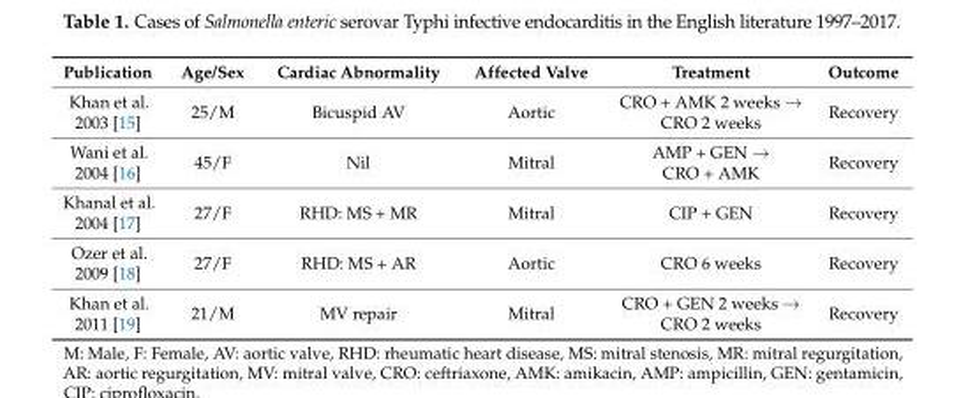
<table><thead><tr><td>Publication</td><td>Age/Sex</td><td>Cardiac Abnormality</td><td>Affected Valve</td><td>Treatment</td><td>Outcome</td></tr></thead><tbody><tr><td>Khan et al. 2003 [15]</td><td>25/M</td><td>Bicuspid AV</td><td>Aortic</td><td>CRO + AMK 2 weeks → CRO 2 weeks</td><td>Recovery</td></tr><tr><td>Wani et al. 2004 [16]</td><td>45/F</td><td>Nil</td><td>Mitral</td><td>AMP + GEN → CRO + AMK</td><td>Recovery</td></tr><tr><td>Khanal et al. 2004 [17]</td><td>27/F</td><td>RHD: MS + MR</td><td>Mitral</td><td>CIP + GEN</td><td>Recovery</td></tr><tr><td>Ozer et al. 2009 [18]</td><td>27/F</td><td>RHD: MS + AR</td><td>Aortic</td><td>CRO 6 weeks</td><td>Recovery</td></tr><tr><td>Khan et al. 2011 [19]</td><td>21/M</td><td>MV repair</td><td>Mitral</td><td>CRO + GEN 2 weeks → CRO 2 weeks</td><td>Recovery</td></tr></tbody></table>